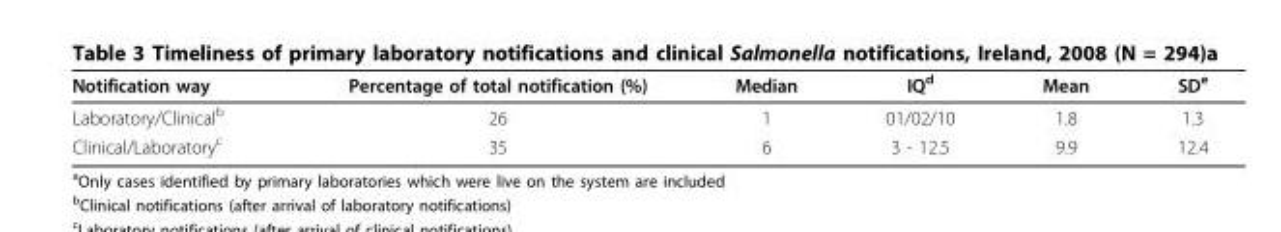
<table><thead><tr><td>Notification way</td><td>Percentage of total notification (%)</td><td>Median</td><td>IQ<sup>d</sup></td><td>Mean</td><td>SD<sup>e</sup></td></tr></thead><tbody><tr><td>Laboratory/Clinical<sup>b</sup></td><td>26</td><td>1</td><td>01/02/10</td><td>1.8</td><td>1.3</td></tr><tr><td>Clinical/Laboratory<sup>c</sup></td><td>35</td><td>6</td><td>3 - 12.5</td><td>9.9</td><td>12.4</td></tr></tbody></table>